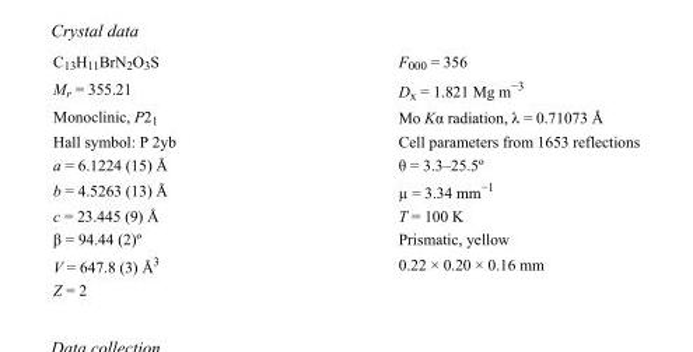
<table><tbody><tr><td>C<sub>13</sub>H<sub>11</sub>BrN<sub>2</sub>O<sub>3</sub>S</td><td>F000 = 356</td></tr><tr><td>M<sub>r</sub> = 355.21</td><td>D<sub>x</sub> = 1.821 Mg m<sup>−3</sup></td></tr><tr><td>Monoclinic, P2<sub>1</sub></td><td>Mo Kα radiation, λ = 0.71073 Å</td></tr><tr><td>Hall symbol: P 2yb</td><td>Cell parameters from 1653 reflections</td></tr><tr><td>a = 6.1224 (15) Å</td><td>θ = 3.3–25.5º</td></tr><tr><td>b = 4.5263 (13) Å</td><td>µ = 3.34 mm<sup>−1</sup></td></tr><tr><td>c = 23.445 (9) Å</td><td>T = 100 K</td></tr><tr><td>β = 94.44 (2)º</td><td>Prismatic, yellow</td></tr><tr><td>V = 647.8 (3) Å<sup>3</sup></td><td>0.22 × 0.20 × 0.16 mm</td></tr><tr><td>Z = 2</td><td></td></tr></tbody></table>